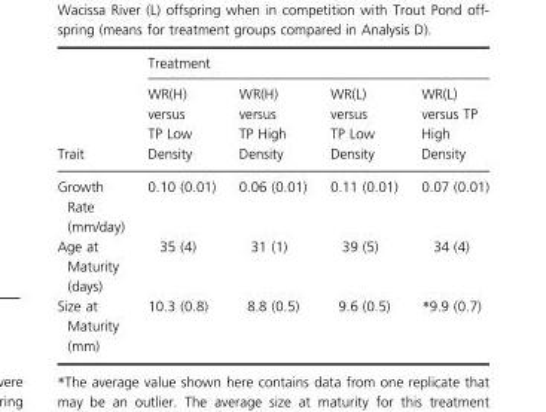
<table><thead><tr><td rowspan="2">Trait</td><td colspan="4">Treatment</td></tr><tr><td>WR(H) versus TP Low Density</td><td>WR(H) versus TP High Density</td><td>WR(L) versus TP Low Density</td><td>WR(L) versus TP High Density</td></tr></thead><tbody><tr><td>Growth Rate (mm/day)</td><td>0.10 (0.01)</td><td>0.06 (0.01)</td><td>0.11 (0.01)</td><td>0.07 (0.01)</td></tr><tr><td>Age at Maturity (days)</td><td>35 (4)</td><td>31 (1)</td><td>39 (5)</td><td>34 (4)</td></tr><tr><td>Size at Maturity (mm)</td><td>10.3 (0.8)</td><td>8.8 (0.5)</td><td>9.6 (0.5)</td><td>*9.9 (0.7)</td></tr></tbody></table>